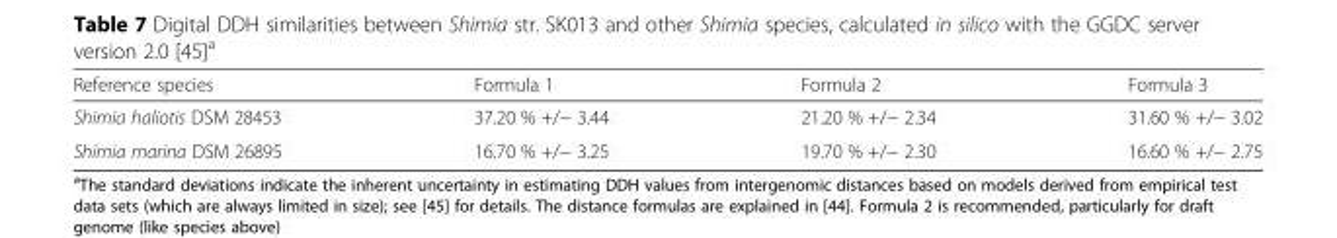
<table><thead><tr><td>Reference species</td><td>Formula 1</td><td>Formula 2</td><td>Formula 3</td></tr></thead><tbody><tr><td>Shimia haliotis DSM 28453</td><td>37.20 % +/− 3.44</td><td>21.20 % +/− 2.34</td><td>31.60 % +/− 3.02</td></tr><tr><td>Shimia marina DSM 26895</td><td>16.70 % +/− 3.25</td><td>19.70 % +/− 2.30</td><td>16.60 % +/− 2.75</td></tr></tbody></table>